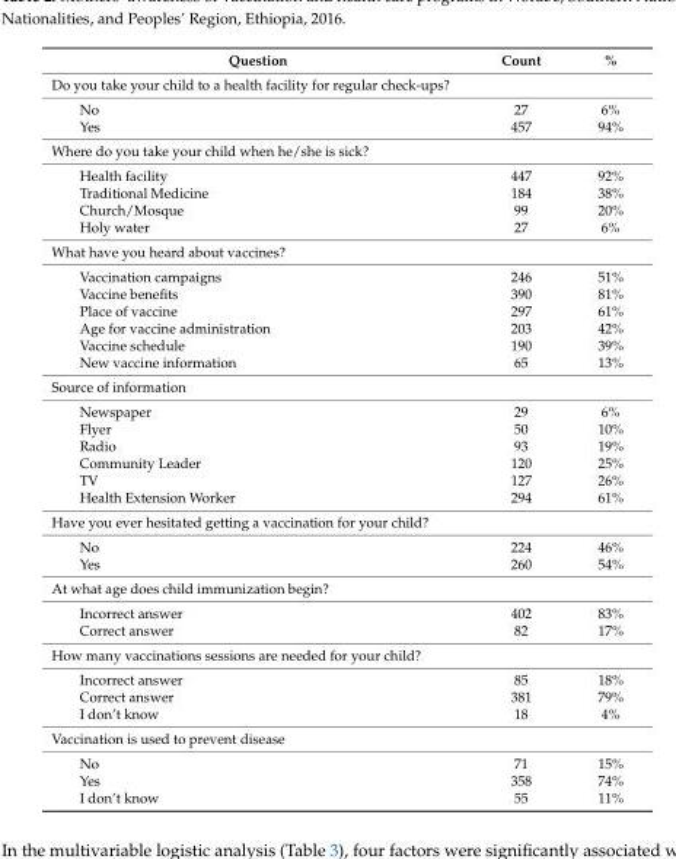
<table><thead><tr><td>Question</td><td>Count</td><td>%</td></tr></thead><tbody><tr><td colspan="3">Do you take your child to a health facility for regular check-ups?</td></tr><tr><td>No</td><td>27</td><td>6%</td></tr><tr><td>Yes</td><td>457</td><td>94%</td></tr><tr><td colspan="3">Where do you take your child when he/she is sick?</td></tr><tr><td>Health facility</td><td>447</td><td>92%</td></tr><tr><td>Traditional Medicine</td><td>184</td><td>38%</td></tr><tr><td>Church/Mosque</td><td>99</td><td>20%</td></tr><tr><td>Holy water</td><td>27</td><td>6%</td></tr><tr><td colspan="3">What have you heard about vaccines?</td></tr><tr><td>Vaccination campaigns</td><td>246</td><td>51%</td></tr><tr><td>Vaccine benefits</td><td>390</td><td>81%</td></tr><tr><td>Place of vaccine</td><td>297</td><td>61%</td></tr><tr><td>Age for vaccine administration</td><td>203</td><td>42%</td></tr><tr><td>Vaccine schedule</td><td>190</td><td>39%</td></tr><tr><td>New vaccine information</td><td>65</td><td>13%</td></tr><tr><td colspan="3">Source of information</td></tr><tr><td>Newspaper</td><td>29</td><td>6%</td></tr><tr><td>Flyer</td><td>50</td><td>10%</td></tr><tr><td>Radio</td><td>93</td><td>19%</td></tr><tr><td>Community Leader</td><td>120</td><td>25%</td></tr><tr><td>TV</td><td>127</td><td>26%</td></tr><tr><td>Health Extension Worker</td><td>294</td><td>61%</td></tr><tr><td colspan="3">Have you ever hesitated getting a vaccination for your child?</td></tr><tr><td>No</td><td>224</td><td>46%</td></tr><tr><td>Yes</td><td>260</td><td>54%</td></tr><tr><td colspan="3">At what age does child immunization begin?</td></tr><tr><td>Incorrect answer</td><td>402</td><td>83%</td></tr><tr><td>Correct answer</td><td>82</td><td>17%</td></tr><tr><td colspan="3">How many vaccinations sessions are needed for your child?</td></tr><tr><td>Incorrect answer</td><td>85</td><td>18%</td></tr><tr><td>Correct answer</td><td>381</td><td>79%</td></tr><tr><td>I don’t know</td><td>18</td><td>4%</td></tr><tr><td colspan="3">Vaccination is used to prevent disease</td></tr><tr><td>No</td><td>71</td><td>15%</td></tr><tr><td>Yes</td><td>358</td><td>74%</td></tr><tr><td>I don’t know</td><td>55</td><td>11%</td></tr></tbody></table>